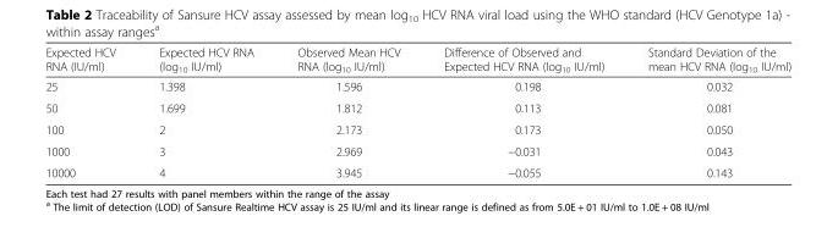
<table><thead><tr><td>Expected HCV RNA (IU/ml)</td><td>Expected HCV RNA (log<sub>10</sub> IU/ml)</td><td>Observed Mean HCV RNA (log<sub>10</sub> IU/ml)</td><td>Difference of Observed and Expected HCV RNA (log<sub>10</sub> IU/ml)</td><td>Standard Deviation of the mean HCV RNA (log<sub>10</sub> IU/ml)</td></tr></thead><tbody><tr><td>25</td><td>1.398</td><td>1.596</td><td>0.198</td><td>0.032</td></tr><tr><td>50</td><td>1.699</td><td>1.812</td><td>0.113</td><td>0.081</td></tr><tr><td>100</td><td>2</td><td>2.173</td><td>0.173</td><td>0.050</td></tr><tr><td>1000</td><td>3</td><td>2.969</td><td>−0.031</td><td>0.043</td></tr><tr><td>10000</td><td>4</td><td>3.945</td><td>−0.055</td><td>0.143</td></tr></tbody></table>